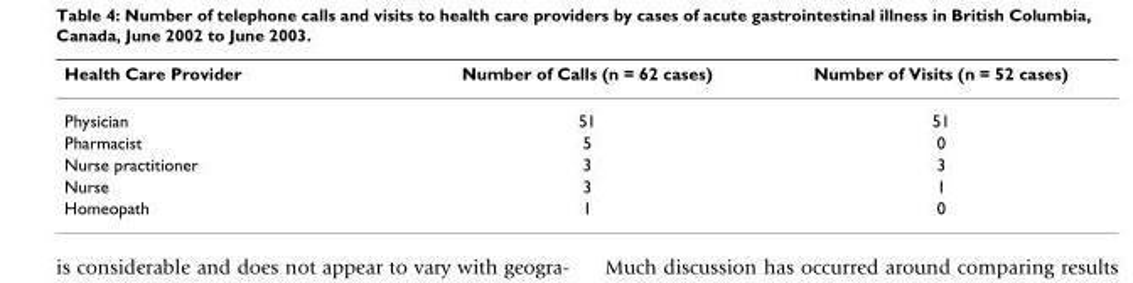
<table><thead><tr><td>Health Care Provider</td><td>Number of Calls (n = 62 cases)</td><td>Number of Visits (n = 52 cases)</td></tr></thead><tbody><tr><td>Physician</td><td>51</td><td>51</td></tr><tr><td>Pharmacist</td><td>5</td><td>0</td></tr><tr><td>Nurse practitioner</td><td>3</td><td>3</td></tr><tr><td>Nurse</td><td>3</td><td>1</td></tr><tr><td>Homeopath</td><td>1</td><td>0</td></tr></tbody></table>